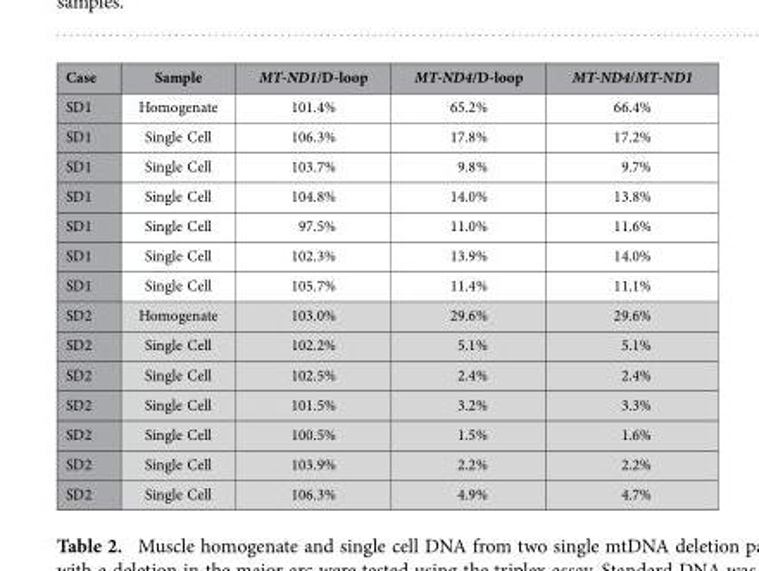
<table><thead><tr><td>Case</td><td>Sample</td><td>MT-ND1/D-loop</td><td>MT-ND4/D-loop</td><td>MT-ND4/MT-ND1</td></tr></thead><tbody><tr><td>SD1</td><td>Homogenate</td><td>101.4%</td><td>65.2%</td><td>66.4%</td></tr><tr><td>SD1</td><td>Single Cell</td><td>106.3%</td><td>17.8%</td><td>17.2%</td></tr><tr><td>SD1</td><td>Single Cell</td><td>103.7%</td><td>9.8%</td><td>9.7%</td></tr><tr><td>SD1</td><td>Single Cell</td><td>104.8%</td><td>14.0%</td><td>13.8%</td></tr><tr><td>SD1</td><td>Single Cell</td><td>97.5%</td><td>11.0%</td><td>11.6%</td></tr><tr><td>SD1</td><td>Single Cell</td><td>102.3%</td><td>13.9%</td><td>14.0%</td></tr><tr><td>SD1</td><td>Single Cell</td><td>105.7%</td><td>11.4%</td><td>11.1%</td></tr><tr><td>SD2</td><td>Homogenate</td><td>103.0%</td><td>29.6%</td><td>29.6%</td></tr><tr><td>SD2</td><td>Single Cell</td><td>102.2%</td><td>5.1%</td><td>5.1%</td></tr><tr><td>SD2</td><td>Single Cell</td><td>102.5%</td><td>2.4%</td><td>2.4%</td></tr><tr><td>SD2</td><td>Single Cell</td><td>101.5%</td><td>3.2%</td><td>3.3%</td></tr><tr><td>SD2</td><td>Single Cell</td><td>100.5%</td><td>1.5%</td><td>1.6%</td></tr><tr><td>SD2</td><td>Single Cell</td><td>103.9%</td><td>2.2%</td><td>2.2%</td></tr><tr><td>SD2</td><td>Single Cell</td><td>106.3%</td><td>4.9%</td><td>4.7%</td></tr></tbody></table>